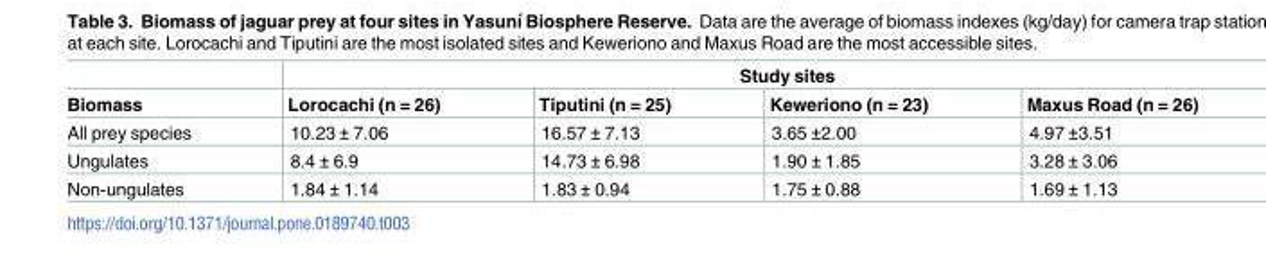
<table><thead><tr><td rowspan="2">Biomass</td><td colspan="4">Study sites</td></tr><tr><td>Lorocachi (n = 26)</td><td>Tiputini (n = 25)</td><td>Keweriono (n = 23)</td><td>Maxus Road (n = 26)</td></tr></thead><tbody><tr><td>All prey species</td><td>10.23 ± 7.06</td><td>16.57 ± 7.13</td><td>3.65 ±2.00</td><td>4.97 ±3.51</td></tr><tr><td>Ungulates</td><td>8.4 ± 6.9</td><td>14.73 ± 6.98</td><td>1.90 ± 1.85</td><td>3.28 ± 3.06</td></tr><tr><td>Non-ungulates</td><td>1.84 ± 1.14</td><td>1.83 ± 0.94</td><td>1.75 ± 0.88</td><td>1.69 ± 1.13</td></tr></tbody></table>